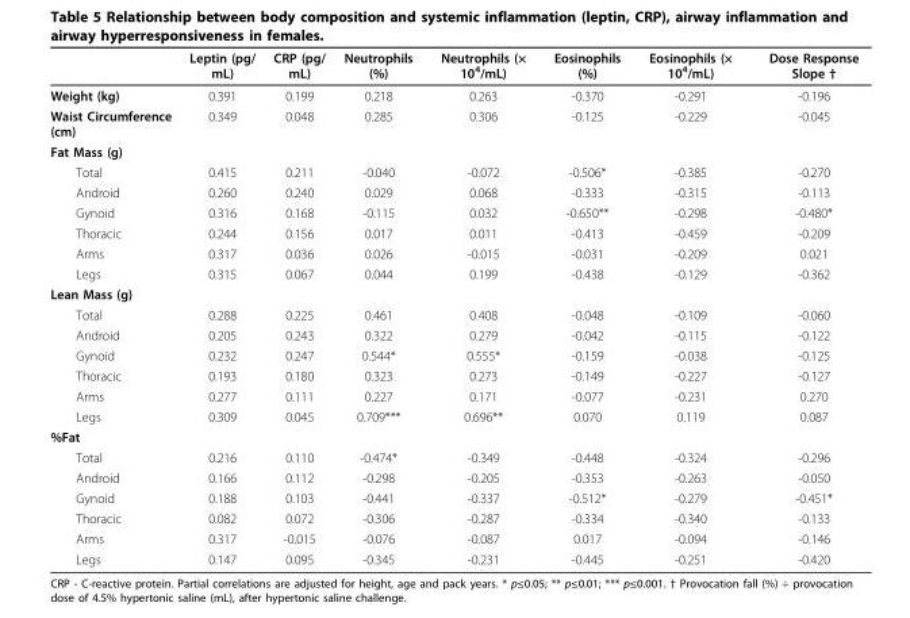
<table><thead><tr><td></td><td>Leptin (pg/ mL)</td><td>CRP (pg/ mL)</td><td>Neutrophils (%)</td><td>Neutrophils (× 10<sup>4</sup>/mL)</td><td>Eosinophils (%)</td><td>Eosinophils (× 10<sup>4</sup>/mL)</td><td>Dose Response Slope †</td></tr></thead><tbody><tr><td>Weight (kg)</td><td>0.391</td><td>0.199</td><td>0.218</td><td>0.263</td><td>-0.370</td><td>-0.291</td><td>-0.196</td></tr><tr><td>Waist Circumference (cm)</td><td>0.349</td><td>0.048</td><td>0.285</td><td>0.306</td><td>-0.125</td><td>-0.229</td><td>-0.045</td></tr><tr><td colspan="8">Fat Mass (g)</td></tr><tr><td>Total</td><td>0.415</td><td>0.211</td><td>-0.040</td><td>-0.072</td><td>-0.506*</td><td>-0.385</td><td>-0.270</td></tr><tr><td>Android</td><td>0.260</td><td>0.240</td><td>0.029</td><td>0.068</td><td>-0.333</td><td>-0.315</td><td>-0.113</td></tr><tr><td>Gynoid</td><td>0.316</td><td>0.168</td><td>-0.115</td><td>0.032</td><td>-0.650**</td><td>-0.298</td><td>-0.480*</td></tr><tr><td>Thoracic</td><td>0.244</td><td>0.156</td><td>0.017</td><td>0.011</td><td>-0.413</td><td>-0.459</td><td>-0.209</td></tr><tr><td>Arms</td><td>0.317</td><td>0.036</td><td>0.026</td><td>-0.015</td><td>-0.031</td><td>-0.209</td><td>0.021</td></tr><tr><td>Legs</td><td>0.315</td><td>0.067</td><td>0.044</td><td>0.199</td><td>-0.438</td><td>-0.129</td><td>-0.362</td></tr><tr><td colspan="8">Lean Mass (g)</td></tr><tr><td>Total</td><td>0.288</td><td>0.225</td><td>0.461</td><td>0.408</td><td>-0.048</td><td>-0.109</td><td>-0.060</td></tr><tr><td>Android</td><td>0.205</td><td>0.243</td><td>0.322</td><td>0.279</td><td>-0.042</td><td>-0.115</td><td>-0.122</td></tr><tr><td>Gynoid</td><td>0.232</td><td>0.247</td><td>0.544*</td><td>0.555*</td><td>-0.159</td><td>-0.038</td><td>-0.125</td></tr><tr><td>Thoracic</td><td>0.193</td><td>0.180</td><td>0.323</td><td>0.273</td><td>-0.149</td><td>-0.227</td><td>-0.127</td></tr><tr><td>Arms</td><td>0.277</td><td>0.111</td><td>0.227</td><td>0.171</td><td>-0.077</td><td>-0.231</td><td>0.270</td></tr><tr><td>Legs</td><td>0.309</td><td>0.045</td><td>0.709***</td><td>0.696**</td><td>0.070</td><td>0.119</td><td>0.087</td></tr><tr><td colspan="8">%Fat</td></tr><tr><td>Total</td><td>0.216</td><td>0.110</td><td>-0.474*</td><td>-0.349</td><td>-0.448</td><td>-0.324</td><td>-0.296</td></tr><tr><td>Android</td><td>0.166</td><td>0.112</td><td>-0.298</td><td>-0.205</td><td>-0.353</td><td>-0.263</td><td>-0.050</td></tr><tr><td>Gynoid</td><td>0.188</td><td>0.103</td><td>-0.441</td><td>-0.337</td><td>-0.512*</td><td>-0.279</td><td>-0.451*</td></tr><tr><td>Thoracic</td><td>0.082</td><td>0.072</td><td>-0.306</td><td>-0.287</td><td>-0.334</td><td>-0.340</td><td>-0.133</td></tr><tr><td>Arms</td><td>0.317</td><td>-0.015</td><td>-0.076</td><td>-0.087</td><td>0.017</td><td>-0.094</td><td>-0.146</td></tr><tr><td>Legs</td><td>0.147</td><td>0.095</td><td>-0.345</td><td>-0.231</td><td>-0.445</td><td>-0.251</td><td>-0.420</td></tr></tbody></table>